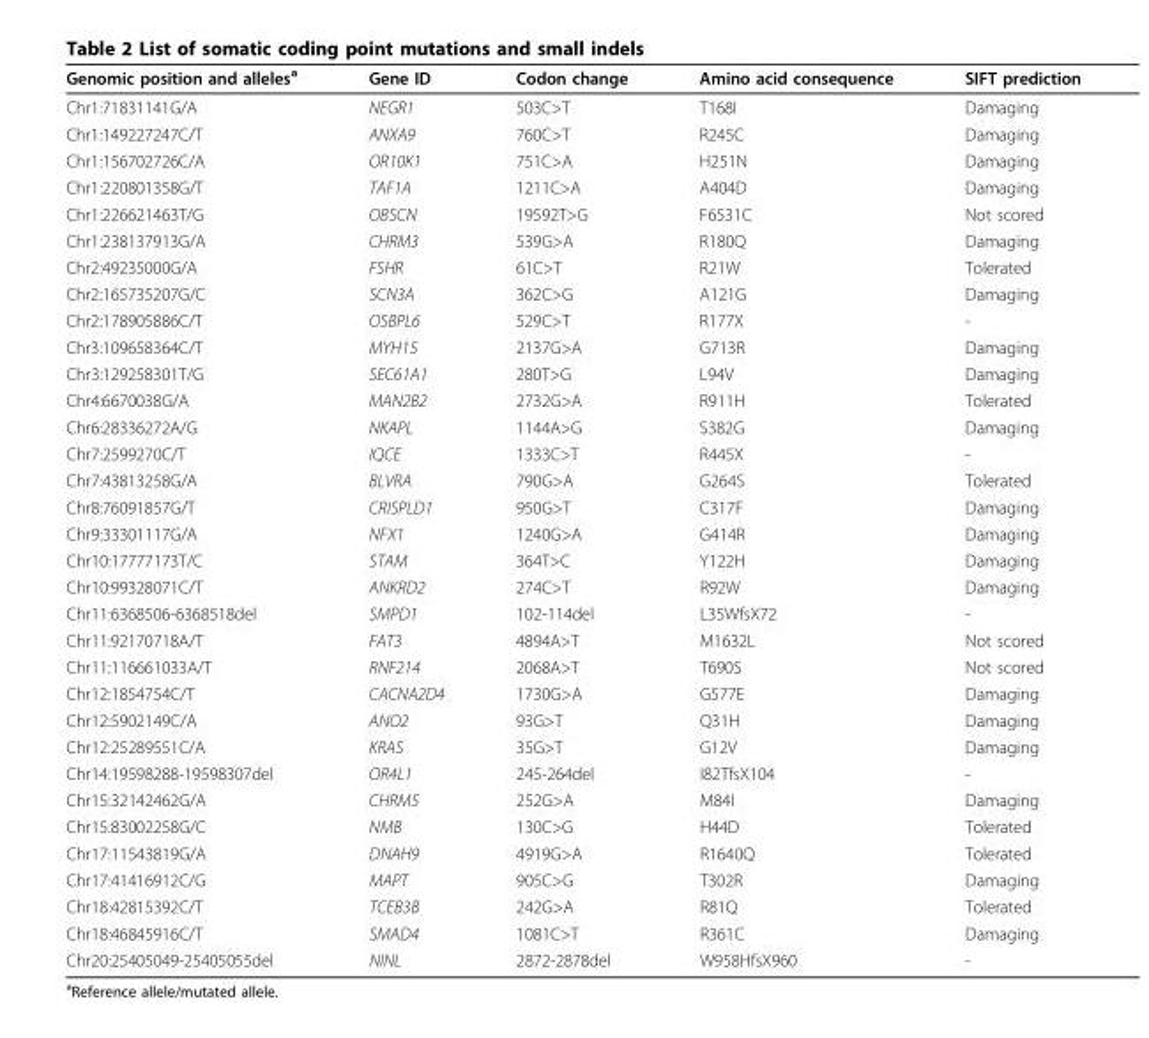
<table><thead><tr><td>Genomic position and alleles<sup>a</sup></td><td>Gene ID</td><td>Codon change</td><td>Amino acid consequence</td><td>SIFT prediction</td></tr></thead><tbody><tr><td>Chr1:71831141G/A</td><td>NEGR1</td><td>503C&gt;T</td><td>T168I</td><td>Damaging</td></tr><tr><td>Chr1:149227247C/T</td><td>ANXA9</td><td>760C&gt;T</td><td>R245C</td><td>Damaging</td></tr><tr><td>Chr1:156702726C/A</td><td>OR10K1</td><td>751C&gt;A</td><td>H251N</td><td>Damaging</td></tr><tr><td>Chr1:220801358G/T</td><td>TAF1A</td><td>1211C&gt;A</td><td>A404D</td><td>Damaging</td></tr><tr><td>Chr1:226621463T/G</td><td>OBSCN</td><td>19592T&gt;G</td><td>F6531C</td><td>Not scored</td></tr><tr><td>Chr1:238137913G/A</td><td>CHRM3</td><td>539G&gt;A</td><td>R180Q</td><td>Damaging</td></tr><tr><td>Chr2:49235000G/A</td><td>FSHR</td><td>61C&gt;T</td><td>R21W</td><td>Tolerated</td></tr><tr><td>Chr2:165735207G/C</td><td>SCN3A</td><td>362C&gt;G</td><td>A121G</td><td>Damaging</td></tr><tr><td>Chr2:178905886C/T</td><td>OSBPL6</td><td>529C&gt;T</td><td>R177X</td><td>-</td></tr><tr><td>Chr3:109658364C/T</td><td>MYH15</td><td>2137G&gt;A</td><td>G713R</td><td>Damaging</td></tr><tr><td>Chr3:129258301T/G</td><td>SEC61A1</td><td>280T&gt;G</td><td>L94V</td><td>Damaging</td></tr><tr><td>Chr4:6670038G/A</td><td>MAN2B2</td><td>2732G&gt;A</td><td>R911H</td><td>Tolerated</td></tr><tr><td>Chr6:28336272A/G</td><td>NKAPL</td><td>1144A&gt;G</td><td>S382G</td><td>Damaging</td></tr><tr><td>Chr7:2599270C/T</td><td>IQCE</td><td>1333C&gt;T</td><td>R445X</td><td>-</td></tr><tr><td>Chr7:43813258G/A</td><td>BLVRA</td><td>790G&gt;A</td><td>G264S</td><td>Tolerated</td></tr><tr><td>Chr8:76091857G/T</td><td>CRISPLD1</td><td>950G&gt;T</td><td>C317F</td><td>Damaging</td></tr><tr><td>Chr9:33301117G/A</td><td>NFX1</td><td>1240G&gt;A</td><td>G414R</td><td>Damaging</td></tr><tr><td>Chr10:17777173T/C</td><td>STAM</td><td>364T&gt;C</td><td>Y122H</td><td>Damaging</td></tr><tr><td>Chr10:99328071C/T</td><td>ANKRD2</td><td>274C&gt;T</td><td>R92W</td><td>Damaging</td></tr><tr><td>Chr11:6368506-6368518del</td><td>SMPD1</td><td>102-114del</td><td>L35WfsX72</td><td>-</td></tr><tr><td>Chr11:92170718A/T</td><td>FAT3</td><td>4894A&gt;T</td><td>M1632L</td><td>Not scored</td></tr><tr><td>Chr11:116661033A/T</td><td>RNF214</td><td>2068A&gt;T</td><td>T690S</td><td>Not scored</td></tr><tr><td>Chr12:1854754C/T</td><td>CACNA2D4</td><td>1730G&gt;A</td><td>G577E</td><td>Damaging</td></tr><tr><td>Chr12:5902149C/A</td><td>ANO2</td><td>93G&gt;T</td><td>Q31H</td><td>Damaging</td></tr><tr><td>Chr12:25289551C/A</td><td>KRAS</td><td>35G&gt;T</td><td>G12V</td><td>Damaging</td></tr><tr><td>Chr14:19598288-19598307del</td><td>OR4L1</td><td>245-264del</td><td>I82TfsX104</td><td>-</td></tr><tr><td>Chr15:32142462G/A</td><td>CHRM5</td><td>252G&gt;A</td><td>M84I</td><td>Damaging</td></tr><tr><td>Chr15:83002258G/C</td><td>NMB</td><td>130C&gt;G</td><td>H44D</td><td>Tolerated</td></tr><tr><td>Chr17:11543819G/A</td><td>DNAH9</td><td>4919G&gt;A</td><td>R1640Q</td><td>Tolerated</td></tr><tr><td>Chr17:41416912C/G</td><td>MAPT</td><td>905C&gt;G</td><td>T302R</td><td>Damaging</td></tr><tr><td>Chr18:42815392C/T</td><td>TCEB3B</td><td>242G&gt;A</td><td>R81Q</td><td>Tolerated</td></tr><tr><td>Chr18:46845916C/T</td><td>SMAD4</td><td>1081C&gt;T</td><td>R361C</td><td>Damaging</td></tr><tr><td>Chr20:25405049-25405055del</td><td>NINL</td><td>2872-2878del</td><td>W958HfsX960</td><td>-</td></tr></tbody></table>